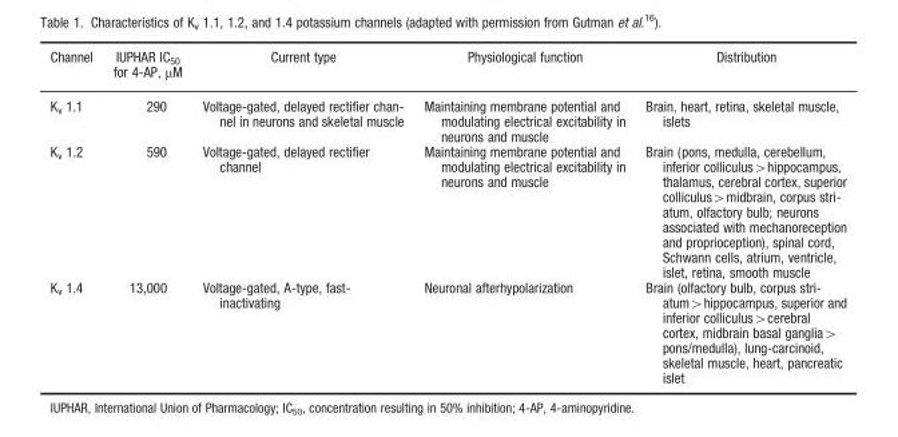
<table><thead><tr><td>Channel</td><td>IUPHAR IC<sub>50</sub> for 4-AP, µM</td><td>Current type</td><td>Physiological function</td><td>Distribution</td></tr></thead><tbody><tr><td>K<sub>v</sub> 1.1</td><td>290</td><td>Voltage-gated, delayed rectifier chan- nel in neurons and skeletal muscle</td><td>Maintaining membrane potential and modulating electrical excitability in neurons and muscle</td><td>Brain, heart, retina, skeletal muscle, islets</td></tr><tr><td>K<sub>v</sub> 1.2</td><td>590</td><td>Voltage-gated, delayed rectifier channel</td><td>Maintaining membrane potential and modulating electrical excitability in neurons and muscle</td><td>Brain (pons, medulla, cerebellum, inferior colliculus4hippocampus, thalamus, cerebral cortex, superior colliculus4midbrain, corpus stri- atum, olfactory bulb; neurons associated with mechanoreception and proprioception), spinal cord, Schwann cells, atrium, ventricle, islet, retina, smooth muscle</td></tr><tr><td>K<sub>v</sub> 1.4</td><td>13,000</td><td>Voltage-gated, A-type, fast- inactivating</td><td>Neuronal afterhypolarization</td><td>Brain (olfactory bulb, corpus stri- atum4hippocampus, superior and inferior colliculus4cerebral cortex, midbrain basal ganglia4 pons/medulla), lung-carcinoid, skeletal muscle, heart, pancreatic islet</td></tr></tbody></table>